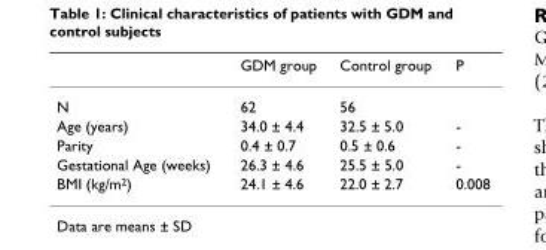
<table><thead><tr><td></td><td>GDM group</td><td>Control group</td><td>P</td></tr></thead><tbody><tr><td>N</td><td>62</td><td>56</td><td></td></tr><tr><td>Age (years)</td><td>34.0 ± 4.4</td><td>32.5 ± 5.0</td><td>-</td></tr><tr><td>Parity</td><td>0.4 ± 0.7</td><td>0.5 ± 0.6</td><td>-</td></tr><tr><td>Gestational Age (weeks)</td><td>26.3 ± 4.6</td><td>25.5 ± 5.0</td><td>-</td></tr><tr><td>BMI (kg/m<sup>2</sup>)</td><td>24.1 ± 4.6</td><td>22.0 ± 2.7</td><td>0.008</td></tr></tbody></table>